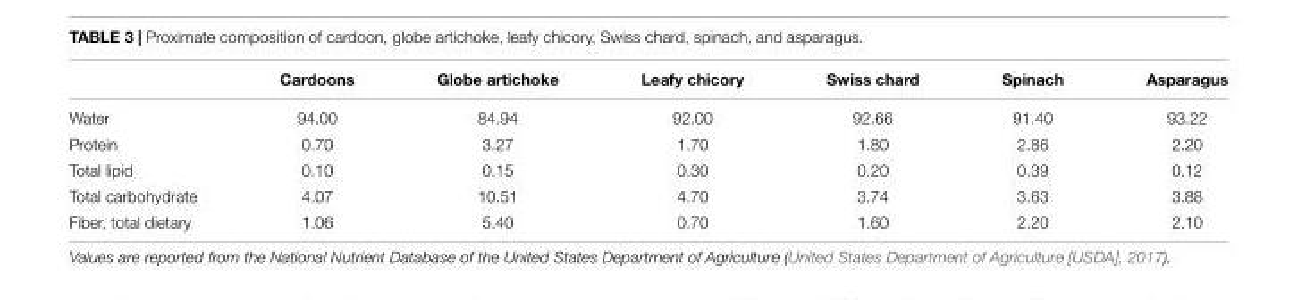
<table><thead><tr><td></td><td>Cardoons</td><td>Globe artichoke</td><td>Leafy chicory</td><td>Swiss chard</td><td>Spinach</td><td>Asparagus</td></tr></thead><tbody><tr><td>Water</td><td>94.00</td><td>84.94</td><td>92.00</td><td>92.66</td><td>91.40</td><td>93.22</td></tr><tr><td>Protein</td><td>0.70</td><td>3.27</td><td>1.70</td><td>1.80</td><td>2.86</td><td>2.20</td></tr><tr><td>Total lipid</td><td>0.10</td><td>0.15</td><td>0.30</td><td>0.20</td><td>0.39</td><td>0.12</td></tr><tr><td>Total carbohydrate</td><td>4.07</td><td>10.51</td><td>4.70</td><td>3.74</td><td>3.63</td><td>3.88</td></tr><tr><td>Fiber, total dietary</td><td>1.06</td><td>5.40</td><td>0.70</td><td>1.60</td><td>2.20</td><td>2.10</td></tr></tbody></table>